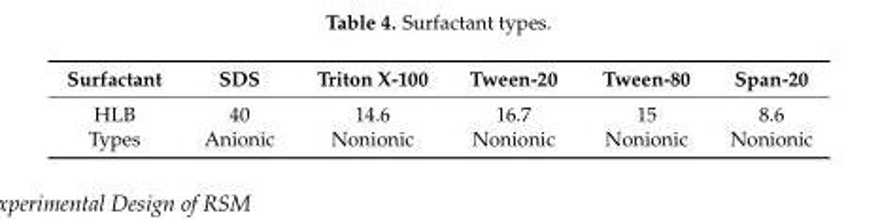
<table><thead><tr><td>Surfactant</td><td>SDS</td><td>Triton X-100</td><td>Tween-20</td><td>Tween-80</td><td>Span-20</td></tr></thead><tbody><tr><td>HLB</td><td>40</td><td>14.6</td><td>16.7</td><td>15</td><td>8.6</td></tr><tr><td>Types</td><td>Anionic</td><td>Nonionic</td><td>Nonionic</td><td>Nonionic</td><td>Nonionic</td></tr></tbody></table>